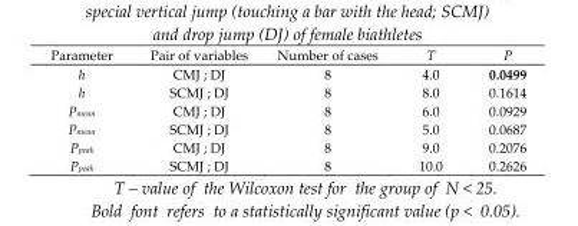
<table><thead><tr><td>Parameter</td><td>Pair of variables</td><td>Number of cases</td><td>T</td><td>P</td></tr></thead><tbody><tr><td>h</td><td>CMJ ; DJ</td><td>8</td><td>4.0</td><td>0.0499</td></tr><tr><td>h</td><td>SCMJ ; DJ</td><td>8</td><td>8.0</td><td>0.1614</td></tr><tr><td>P<sub>mean</sub></td><td>CMJ ; DJ</td><td>8</td><td>6.0</td><td>0.0929</td></tr><tr><td>P<sub>mean</sub></td><td>SCMJ ; DJ</td><td>8</td><td>5.0</td><td>0.0687</td></tr><tr><td>P<sub>peak</sub></td><td>CMJ ; DJ</td><td>8</td><td>9.0</td><td>0.2076</td></tr><tr><td>P<sub>peak</sub></td><td>SCMJ ; DJ</td><td>8</td><td>10.0</td><td>0.2626</td></tr></tbody></table>